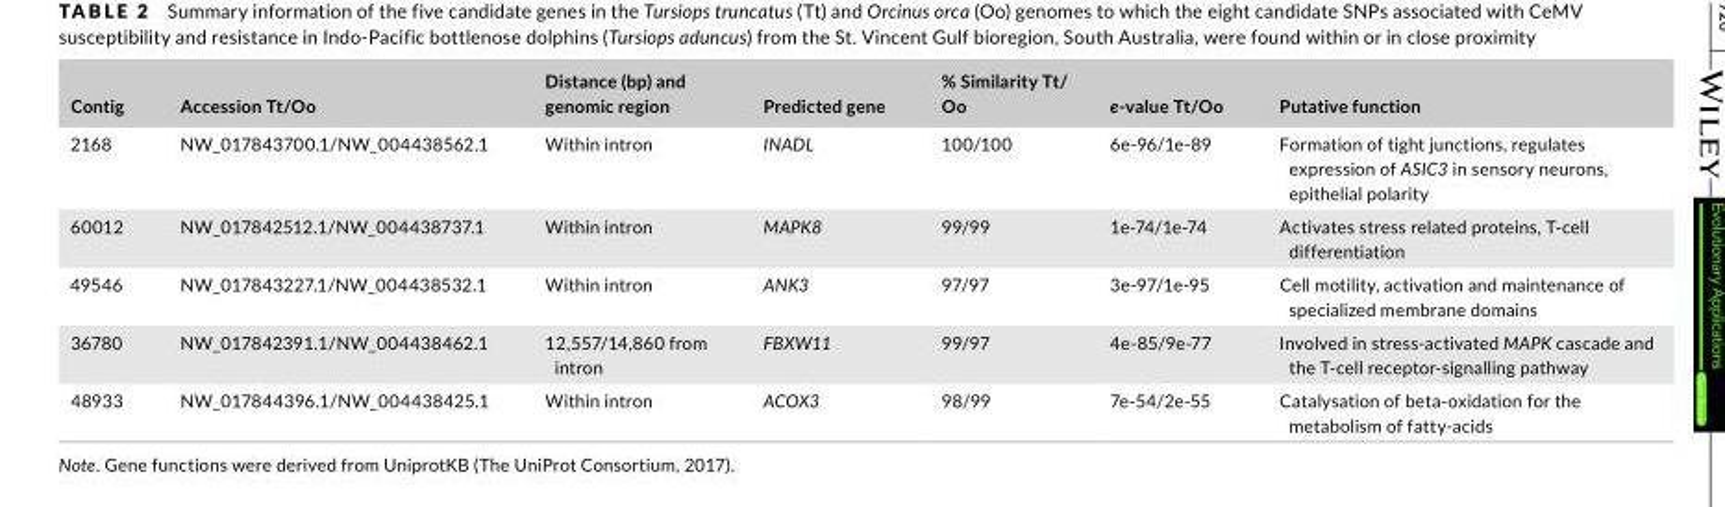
<table><thead><tr><td>Contig</td><td>Accession Tt/Oo</td><td>Distance (bp) and genomic region</td><td>Predicted gene</td><td>% Similarity Tt/ Oo</td><td>e‐value Tt/Oo</td><td>Putative function</td></tr></thead><tbody><tr><td>2168</td><td>NW_017843700.1/NW_004438562.1</td><td>Within intron</td><td>INADL</td><td>100/100</td><td>6e-96/1e-89</td><td>Formation of tight junctions, regulates expression of ASIC3 in sensory neurons, epithelial polarity</td></tr><tr><td>60012</td><td>NW_017842512.1/NW_004438737.1</td><td>Within intron</td><td>MAPK8</td><td>99/99</td><td>1e-74/1e-74</td><td>Activates stress related proteins, T-cell differentiation</td></tr><tr><td>49546</td><td>NW_017843227.1/NW_004438532.1</td><td>Within intron</td><td>ANK3</td><td>97/97</td><td>3e-97/1e-95</td><td>Cell motility, activation and maintenance of specialized membrane domains</td></tr><tr><td>36780</td><td>NW_017842391.1/NW_004438462.1</td><td>12,557/14,860 from intron</td><td>FBXW11</td><td>99/97</td><td>4e-85/9e-77</td><td>Involved in stress-activated MAPK cascade and the T-cell receptor-signalling pathway</td></tr><tr><td>48933</td><td>NW_017844396.1/NW_004438425.1</td><td>Within intron</td><td>ACOX3</td><td>98/99</td><td>7e-54/2e-55</td><td>Catalysation of beta-oxidation for the metabolism of fatty-acids</td></tr></tbody></table>